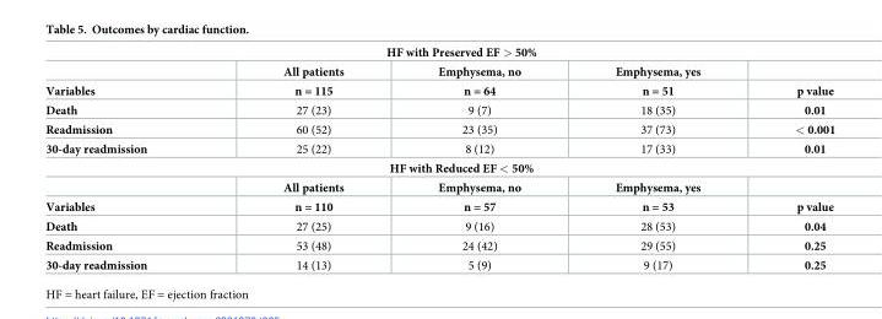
<table><tbody><tr><td colspan="5">HF with Preserved EF &gt; 50%</td></tr><tr><td></td><td>All patients</td><td>Emphysema, no</td><td>Emphysema, yes</td><td></td></tr><tr><td>Variables</td><td>n = 115</td><td>n = 64</td><td>n = 51</td><td>p value</td></tr><tr><td>Death</td><td>27 (23)</td><td>9 (7)</td><td>18 (35)</td><td>0.01</td></tr><tr><td>Readmission</td><td>60 (52)</td><td>23 (35)</td><td>37 (73)</td><td>&lt; 0.001</td></tr><tr><td>30-day readmission</td><td>25 (22)</td><td>8 (12)</td><td>17 (33)</td><td>0.01</td></tr><tr><td colspan="5">HF with Reduced EF &lt; 50%</td></tr><tr><td></td><td>All patients</td><td>Emphysema, no</td><td>Emphysema, yes</td><td></td></tr><tr><td>Variables</td><td>n = 110</td><td>n = 57</td><td>n = 53</td><td>p value</td></tr><tr><td>Death</td><td>27 (25)</td><td>9 (16)</td><td>28 (53)</td><td>0.04</td></tr><tr><td>Readmission</td><td>53 (48)</td><td>24 (42)</td><td>29 (55)</td><td>0.25</td></tr><tr><td>30-day readmission</td><td>14 (13)</td><td>5 (9)</td><td>9 (17)</td><td>0.25</td></tr></tbody></table>